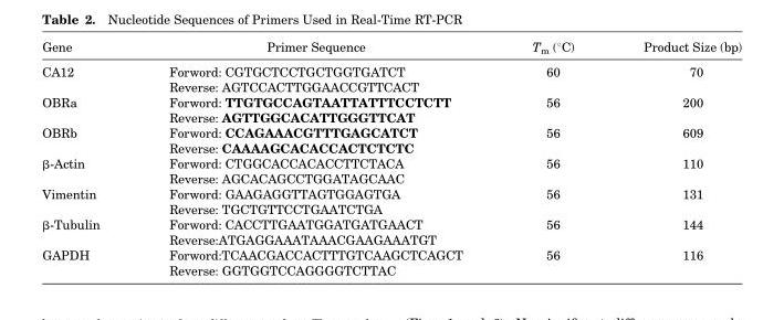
<table><thead><tr><td>Gene</td><td>Primer Sequence</td><td>T<sub>m</sub> (°C)</td><td>Product Size (bp)</td></tr></thead><tbody><tr><td rowspan="2">CA12</td><td>Forword: CGTGCTCCTGCTGGTGATCT</td><td>60</td><td>70</td></tr><tr><td>Reverse: AGTCCACTTGGAACCGTTCACT</td><td></td><td></td></tr><tr><td rowspan="2">OBRa</td><td>Forword: TTGTGCCAGTAATTATTTCCTCTT</td><td>56</td><td>200</td></tr><tr><td>Reverse: AGTTGGCACATTGGGTTCAT</td><td></td><td></td></tr><tr><td rowspan="2">OBRb</td><td>Forword: CCAGAAACGTTTGAGCATCT</td><td>56</td><td>609</td></tr><tr><td>Reverse: CAAAAGCACACCACTCTCTC</td><td></td><td></td></tr><tr><td rowspan="2">β-Actin</td><td>Forword: CTGGCACCACACCTTCTACA</td><td>56</td><td>110</td></tr><tr><td>Reverse: AGCACAGCCTGGATAGCAAC</td><td></td><td></td></tr><tr><td rowspan="2">Vimentin</td><td>Forword: GAAGAGGTTAGTGGAGTGA</td><td>56</td><td>131</td></tr><tr><td>Reverse: TGCTGTTCCTGAATCTGA</td><td></td><td></td></tr><tr><td rowspan="2">β-Tubulin</td><td>Forword: CACCTTGAATGGATGATGAACT</td><td>56</td><td>144</td></tr><tr><td>Reverse:ATGAGGAAATAAACGAAGAAATGT</td><td></td><td></td></tr><tr><td rowspan="2">GAPDH</td><td>Forword:TCAACGACCACTTTGTCAAGCTCAGCT</td><td>56</td><td>116</td></tr><tr><td>Reverse: GGTGGTCCAGGGGTCTTAC</td><td></td><td></td></tr></tbody></table>